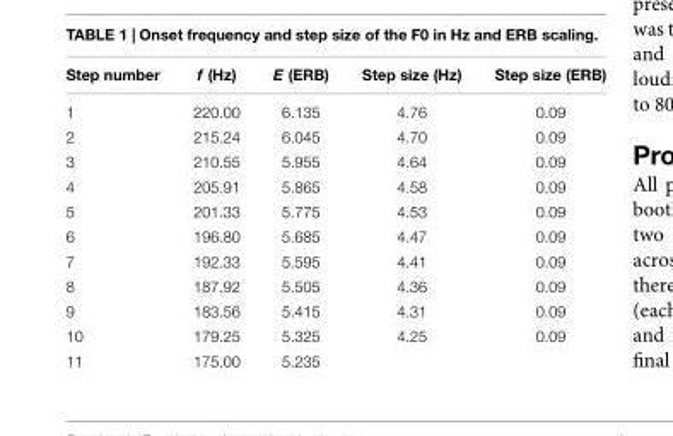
<table><thead><tr><td>Step number</td><td>f (Hz)</td><td>E (ERB)</td><td>Step size (Hz)</td><td>Step size (ERB)</td></tr></thead><tbody><tr><td>1</td><td>220.00</td><td>6.135</td><td>4.76</td><td>0.09</td></tr><tr><td>2</td><td>215.24</td><td>6.045</td><td>4.70</td><td>0.09</td></tr><tr><td>3</td><td>210.55</td><td>5.955</td><td>4.64</td><td>0.09</td></tr><tr><td>4</td><td>205.91</td><td>5.865</td><td>4.58</td><td>0.09</td></tr><tr><td>5</td><td>201.33</td><td>5.775</td><td>4.53</td><td>0.09</td></tr><tr><td>6</td><td>196.80</td><td>5.685</td><td>4.47</td><td>0.09</td></tr><tr><td>7</td><td>192.33</td><td>5.595</td><td>4.41</td><td>0.09</td></tr><tr><td>8</td><td>187.92</td><td>5.505</td><td>4.36</td><td>0.09</td></tr><tr><td>9</td><td>183.56</td><td>5.415</td><td>4.31</td><td>0.09</td></tr><tr><td>10</td><td>179.25</td><td>5.325</td><td>4.25</td><td>0.09</td></tr><tr><td>11</td><td>175.00</td><td>5.235</td><td></td><td></td></tr></tbody></table>